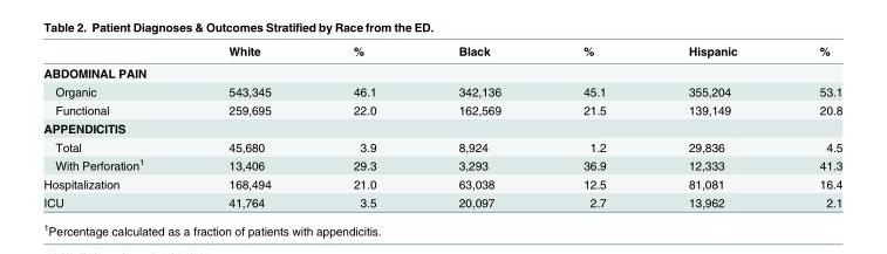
<table><thead><tr><td></td><td>White</td><td>%</td><td>Black</td><td>%</td><td>Hispanic</td><td>%</td></tr></thead><tbody><tr><td colspan="7">ABDOMINAL PAIN</td></tr><tr><td>Organic</td><td>543,345</td><td>46.1</td><td>342,136</td><td>45.1</td><td>355,204</td><td>53.1</td></tr><tr><td>Functional</td><td>259,695</td><td>22.0</td><td>162,569</td><td>21.5</td><td>139,149</td><td>20.8</td></tr><tr><td colspan="7">APPENDICITIS</td></tr><tr><td>Total</td><td>45,680</td><td>3.9</td><td>8,924</td><td>1.2</td><td>29,836</td><td>4.5</td></tr><tr><td>With Perforation<sup>1</sup></td><td>13,406</td><td>29.3</td><td>3,293</td><td>36.9</td><td>12,333</td><td>41.3</td></tr><tr><td>Hospitalization</td><td>168,494</td><td>21.0</td><td>63,038</td><td>12.5</td><td>81,081</td><td>16.4</td></tr><tr><td>ICU</td><td>41,764</td><td>3.5</td><td>20,097</td><td>2.7</td><td>13,962</td><td>2.1</td></tr></tbody></table>